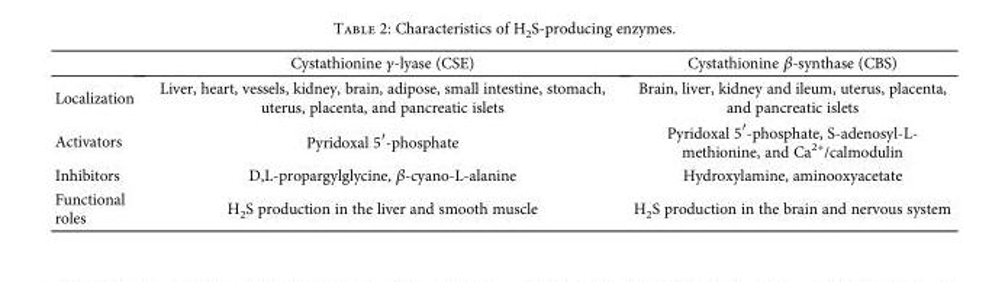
<table><thead><tr><td></td><td>Cystathionine γ-lyase (CSE)</td><td>Cystathionine β-synthase (CBS)</td></tr></thead><tbody><tr><td>Localization</td><td>Liver, heart, vessels, kidney, brain, adipose, small intestine, stomach, uterus, placenta, and pancreatic islets</td><td>Brain, liver, kidney and ileum, uterus, placenta, and pancreatic islets</td></tr><tr><td>Activators</td><td>Pyridoxal 5′-phosphate</td><td>Pyridoxal 5′-phosphate, S-adenosyl-L- methionine, and Ca<sup>2+</sup>/calmodulin</td></tr><tr><td>Inhibitors</td><td>D,L-propargylglycine, β-cyano-L-alanine</td><td>Hydroxylamine, aminooxyacetate</td></tr><tr><td>Functional roles</td><td>H<sub>2</sub>S production in the liver and smooth muscle</td><td>H<sub>2</sub>S production in the brain and nervous system</td></tr></tbody></table>